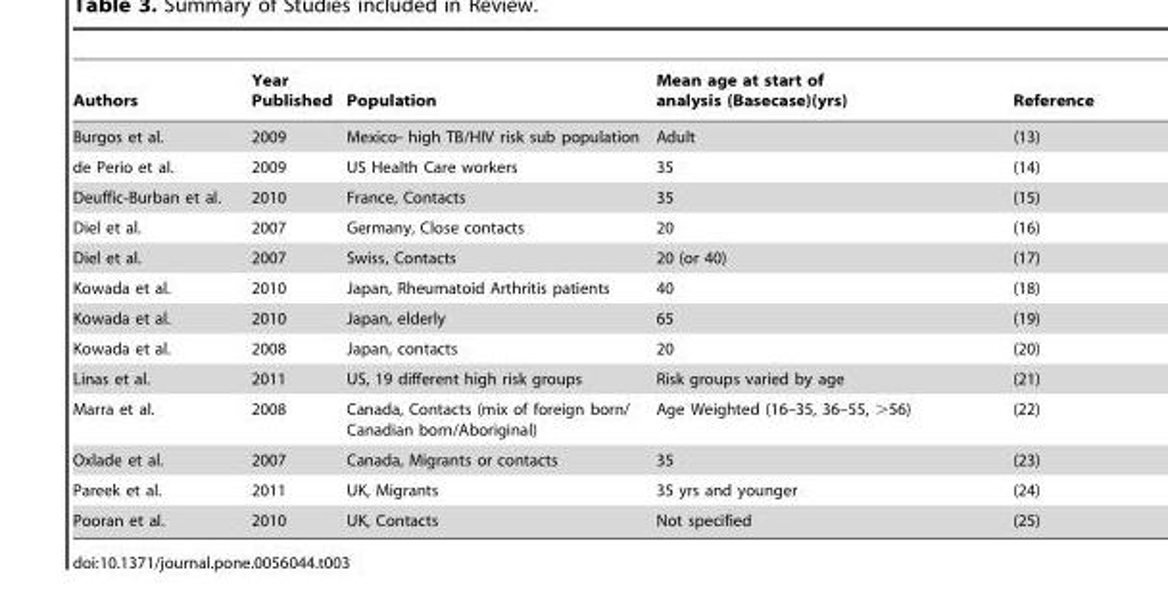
<table><thead><tr><td>Authors</td><td>Year Published</td><td>Population</td><td>Mean age at start of analysis (Basecase)(yrs)</td><td>Reference</td></tr></thead><tbody><tr><td>Burgos et al.</td><td>2009</td><td>Mexico- high TB/HIV risk sub population</td><td>Adult</td><td>(13)</td></tr><tr><td>de Perio et al.</td><td>2009</td><td>US Health Care workers</td><td>35</td><td>(14)</td></tr><tr><td>Deuffic-Burban et al.</td><td>2010</td><td>France, Contacts</td><td>35</td><td>(15)</td></tr><tr><td>Diel et al.</td><td>2007</td><td>Germany, Close contacts</td><td>20</td><td>(16)</td></tr><tr><td>Diel et al.</td><td>2007</td><td>Swiss, Contacts</td><td>20 (or 40)</td><td>(17)</td></tr><tr><td>Kowada et al.</td><td>2010</td><td>Japan, Rheumatoid Arthritis patients</td><td>40</td><td>(18)</td></tr><tr><td>Kowada et al.</td><td>2010</td><td>Japan, elderly</td><td>65</td><td>(19)</td></tr><tr><td>Kowada et al.</td><td>2008</td><td>Japan, contacts</td><td>20</td><td>(20)</td></tr><tr><td>Linas et al.</td><td>2011</td><td>US, 19 different high risk groups</td><td>Risk groups varied by age</td><td>(21)</td></tr><tr><td>Marra et al.</td><td>2008</td><td>Canada, Contacts (mix of foreign born/ Canadian born/Aboriginal)</td><td>Age Weighted (16–35, 36–55, &gt;56)</td><td>(22)</td></tr><tr><td>Oxlade et al.</td><td>2007</td><td>Canada, Migrants or contacts</td><td>35</td><td>(23)</td></tr><tr><td>Pareek et al.</td><td>2011</td><td>UK, Migrants</td><td>35 yrs and younger</td><td>(24)</td></tr><tr><td>Pooran et al.</td><td>2010</td><td>UK, Contacts</td><td>Not specified</td><td>(25)</td></tr></tbody></table>